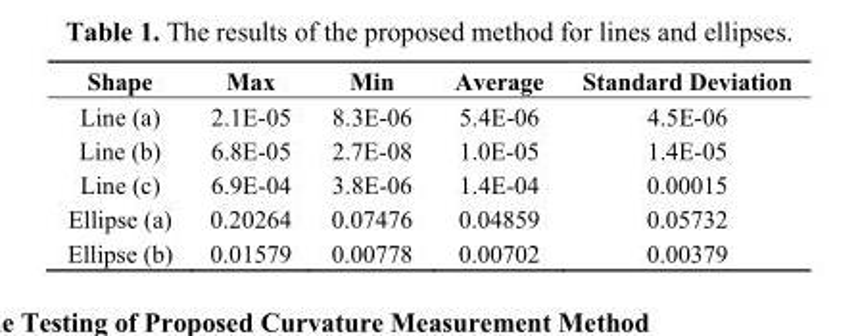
<table><thead><tr><td>Shape</td><td>Max</td><td>Min</td><td>Average</td><td>Standard Deviation</td></tr></thead><tbody><tr><td>Line (a)</td><td>2.1E-05</td><td>8.3E-06</td><td>5.4E-06</td><td>4.5E-06</td></tr><tr><td>Line (b)</td><td>6.8E-05</td><td>2.7E-08</td><td>1.0E-05</td><td>1.4E-05</td></tr><tr><td>Line (c)</td><td>6.9E-04</td><td>3.8E-06</td><td>1.4E-04</td><td>0.00015</td></tr><tr><td>Ellipse (a)</td><td>0.20264</td><td>0.07476</td><td>0.04859</td><td>0.05732</td></tr><tr><td>Ellipse (b)</td><td>0.01579</td><td>0.00778</td><td>0.00702</td><td>0.00379</td></tr></tbody></table>